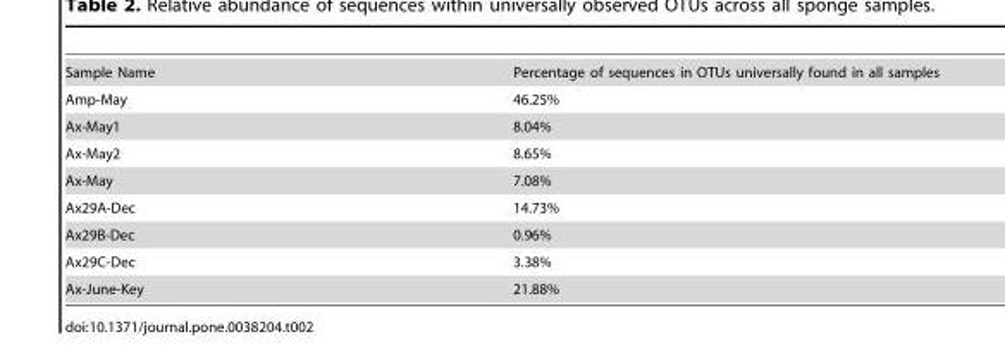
<table><tbody><tr><td>Sample Name</td><td>Percentage of sequences in OTUs universally found in all samples</td></tr><tr><td>Amp-May</td><td>46.25%</td></tr><tr><td>Ax-May1</td><td>8.04%</td></tr><tr><td>Ax-May2</td><td>8.65%</td></tr><tr><td>Ax-May</td><td>7.08%</td></tr><tr><td>Ax29A-Dec</td><td>14.73%</td></tr><tr><td>Ax29B-Dec</td><td>0.96%</td></tr><tr><td>Ax29C-Dec</td><td>3.38%</td></tr><tr><td>Ax-June-Key</td><td>21.88%</td></tr></tbody></table>